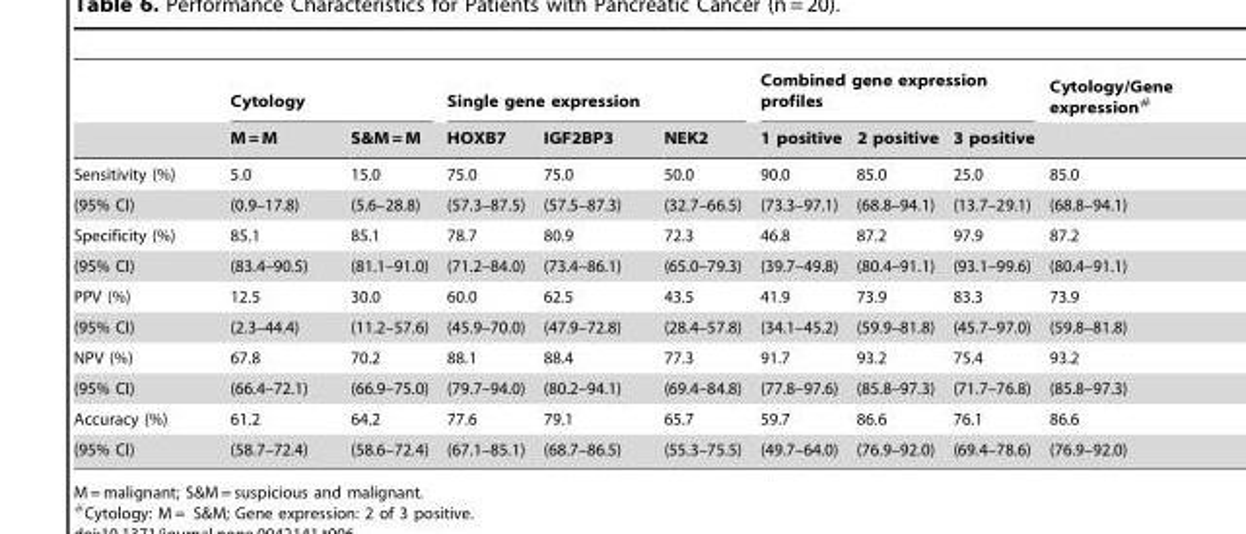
<table><thead><tr><td rowspan="2"></td><td colspan="2">Cytology</td><td colspan="3">Single gene expression</td><td colspan="3">Combined gene expression profiles</td><td rowspan="2">Cytology/Gene expression#</td></tr><tr><td>M = M</td><td>S&amp;M = M</td><td>HOXB7</td><td>IGF2BP3</td><td>NEK2</td><td>1 positive</td><td>2 positive</td><td>3 positive</td></tr></thead><tbody><tr><td>Sensitivity (%)</td><td>5.0</td><td>15.0</td><td>75.0</td><td>75.0</td><td>50.0</td><td>90.0</td><td>85.0</td><td>25.0</td><td>85.0</td></tr><tr><td>(95% CI)</td><td>(0.9–17.8)</td><td>(5.6–28.8)</td><td>(57.3–87.5)</td><td>(57.5–87.3)</td><td>(32.7–66.5)</td><td>(73.3–97.1)</td><td>(68.8–94.1)</td><td>(13.7–29.1)</td><td>(68.8–94.1)</td></tr><tr><td>Specificity (%)</td><td>85.1</td><td>85.1</td><td>78.7</td><td>80.9</td><td>72.3</td><td>46.8</td><td>87.2</td><td>97.9</td><td>87.2</td></tr><tr><td>(95% CI)</td><td>(83.4–90.5)</td><td>(81.1–91.0)</td><td>(71.2–84.0)</td><td>(73.4–86.1)</td><td>(65.0–79.3)</td><td>(39.7–49.8)</td><td>(80.4–91.1)</td><td>(93.1–99.6)</td><td>(80.4–91.1)</td></tr><tr><td>PPV (%)</td><td>12.5</td><td>30.0</td><td>60.0</td><td>62.5</td><td>43.5</td><td>41.9</td><td>73.9</td><td>83.3</td><td>73.9</td></tr><tr><td>(95% CI)</td><td>(2.3–44.4)</td><td>(11.2–57.6)</td><td>(45.9–70.0)</td><td>(47.9–72.8)</td><td>(28.4–57.8)</td><td>(34.1–45.2)</td><td>(59.9–81.8)</td><td>(45.7–97.0)</td><td>(59.8–81.8)</td></tr><tr><td>NPV (%)</td><td>67.8</td><td>70.2</td><td>88.1</td><td>88.4</td><td>77.3</td><td>91.7</td><td>93.2</td><td>75.4</td><td>93.2</td></tr><tr><td>(95% CI)</td><td>(66.4–72.1)</td><td>(66.9–75.0)</td><td>(79.7–94.0)</td><td>(80.2–94.1)</td><td>(69.4–84.8)</td><td>(77.8–97.6)</td><td>(85.8–97.3)</td><td>(71.7–76.8)</td><td>(85.8–97.3)</td></tr><tr><td>Accuracy (%)</td><td>61.2</td><td>64.2</td><td>77.6</td><td>79.1</td><td>65.7</td><td>59.7</td><td>86.6</td><td>76.1</td><td>86.6</td></tr><tr><td>(95% CI)</td><td>(58.7–72.4)</td><td>(58.6–72.4)</td><td>(67.1–85.1)</td><td>(68.7–86.5)</td><td>(55.3–75.5)</td><td>(49.7–64.0)</td><td>(76.9–92.0)</td><td>(69.4–78.6)</td><td>(76.9–92.0)</td></tr></tbody></table>